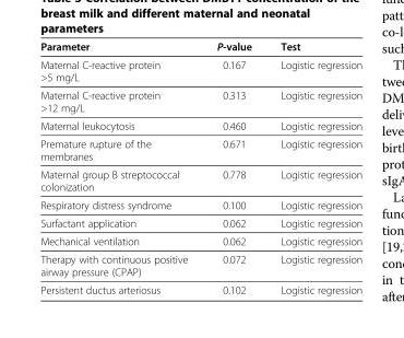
<table><thead><tr><td>Parameter</td><td>P-value</td><td>Test</td></tr></thead><tbody><tr><td>Maternal C-reactive protein &gt;5 mg/L</td><td>0.167</td><td>Logistic regression</td></tr><tr><td>Maternal C-reactive protein &gt;12 mg/L</td><td>0.313</td><td>Logistic regression</td></tr><tr><td>Maternal leukocytosis</td><td>0.460</td><td>Logistic regression</td></tr><tr><td>Premature rupture of the membranes</td><td>0.671</td><td>Logistic regression</td></tr><tr><td>Maternal group B streptococcal colonization</td><td>0.778</td><td>Logistic regression</td></tr><tr><td>Respiratory distress syndrome</td><td>0.100</td><td>Logistic regression</td></tr><tr><td>Surfactant application</td><td>0.062</td><td>Logistic regression</td></tr><tr><td>Mechanical ventilation</td><td>0.062</td><td>Logistic regression</td></tr><tr><td>Therapy with continuous positive airway pressure (CPAP)</td><td>0.072</td><td>Logistic regression</td></tr><tr><td>Persistent ductus arteriosus</td><td>0.102</td><td>Logistic regression</td></tr></tbody></table>